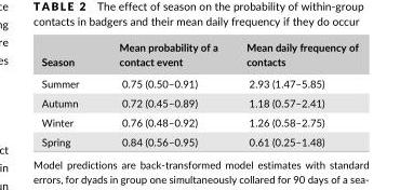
<table><thead><tr><td>Season</td><td>Mean probability of a contact event</td><td>Mean daily frequency of contacts</td></tr></thead><tbody><tr><td>Summer</td><td>0.75 (0.50–0.91)</td><td>2.93 (1.47–5.85)</td></tr><tr><td>Autumn</td><td>0.72 (0.45–0.89)</td><td>1.18 (0.57–2.41)</td></tr><tr><td>Winter</td><td>0.76 (0.48–0.92)</td><td>1.26 (0.58–2.75)</td></tr><tr><td>Spring</td><td>0.84 (0.56–0.95)</td><td>0.61 (0.25–1.48)</td></tr></tbody></table>